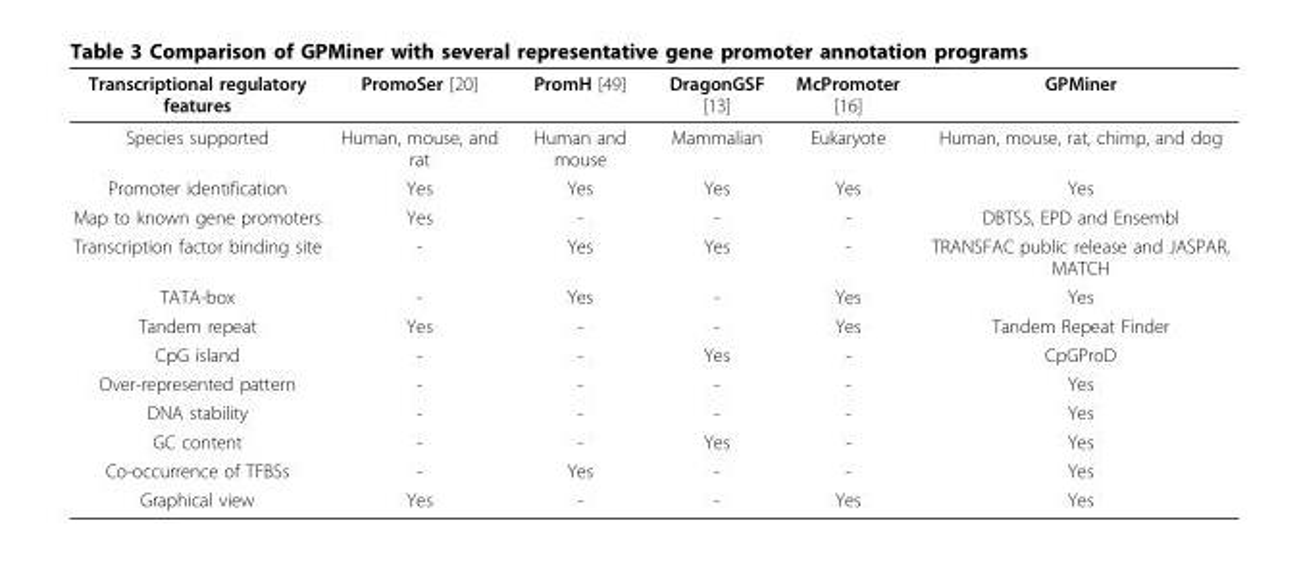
<table><thead><tr><td>Transcriptional regulatory features</td><td>PromoSer [20]</td><td>PromH [49]</td><td>DragonGSF [13]</td><td>McPromoter [16]</td><td>GPMiner</td></tr></thead><tbody><tr><td>Species supported</td><td>Human, mouse, and rat</td><td>Human and mouse</td><td>Mammalian</td><td>Eukaryote</td><td>Human, mouse, rat, chimp, and dog</td></tr><tr><td>Promoter identification</td><td>Yes</td><td>Yes</td><td>Yes</td><td>Yes</td><td>Yes</td></tr><tr><td>Map to known gene promoters</td><td>Yes</td><td>-</td><td>-</td><td>-</td><td>DBTSS, EPD and Ensembl</td></tr><tr><td>Transcription factor binding site</td><td>-</td><td>Yes</td><td>Yes</td><td>-</td><td>TRANSFAC public release and JASPAR, MATCH</td></tr><tr><td>TATA-box</td><td>-</td><td>Yes</td><td>-</td><td>Yes</td><td>Yes</td></tr><tr><td>Tandem repeat</td><td>Yes</td><td>-</td><td>-</td><td>Yes</td><td>Tandem Repeat Finder</td></tr><tr><td>CpG island</td><td>-</td><td>-</td><td>Yes</td><td>-</td><td>CpGProD</td></tr><tr><td>Over-represented pattern</td><td>-</td><td>-</td><td>-</td><td>-</td><td>Yes</td></tr><tr><td>DNA stability</td><td>-</td><td>-</td><td>-</td><td>-</td><td>Yes</td></tr><tr><td>GC content</td><td>-</td><td>-</td><td>Yes</td><td>-</td><td>Yes</td></tr><tr><td>Co-occurrence of TFBSs</td><td>-</td><td>Yes</td><td>-</td><td>-</td><td>Yes</td></tr><tr><td>Graphical view</td><td>Yes</td><td>-</td><td>-</td><td>Yes</td><td>Yes</td></tr></tbody></table>